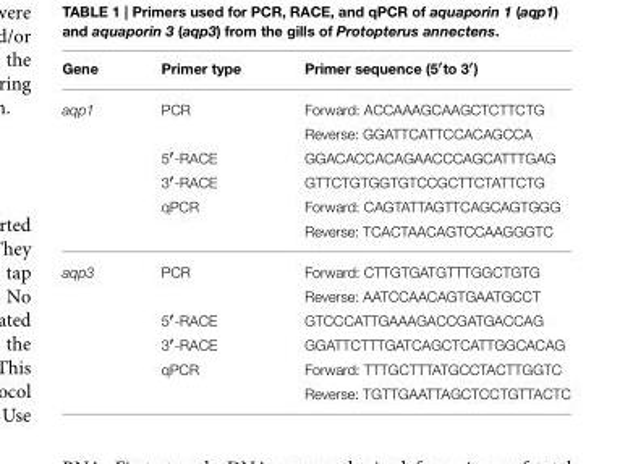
<table><thead><tr><td>Gene</td><td>Primer type</td><td>Primer sequence (5′to 3′)</td></tr></thead><tbody><tr><td rowspan="6">aqp1</td><td>PCR</td><td>Forward: ACCAAAGCAAGCTCTTCTG</td></tr><tr><td></td><td>Reverse: GGATTCATTCCACAGCCA</td></tr><tr><td>5′-RACE</td><td>GGACACCACAGAACCCAGCATTTGAG</td></tr><tr><td>3′-RACE</td><td>GTTCTGTGGTGTCCGCTTCTATTCTG</td></tr><tr><td>qPCR</td><td>Forward: CAGTATTAGTTCAGCAGTGGG</td></tr><tr><td></td><td>Reverse: TCACTAACAGTCCAAGGGTC</td></tr><tr><td rowspan="6">aqp3</td><td>PCR</td><td>Forward: CTTGTGATGTTTGGCTGTG</td></tr><tr><td></td><td>Reverse: AATCCAACAGTGAATGCCT</td></tr><tr><td>5′-RACE</td><td>GTCCCATTGAAAGACCGATGACCAG</td></tr><tr><td>3′-RACE</td><td>GGATTCTTTGATCAGCTCATTGGCACAG</td></tr><tr><td>qPCR</td><td>Forward: TTTGCTTTATGCCTACTTGGTC</td></tr><tr><td></td><td>Reverse: TGTTGAATTAGCTCCTGTTACTC</td></tr></tbody></table>